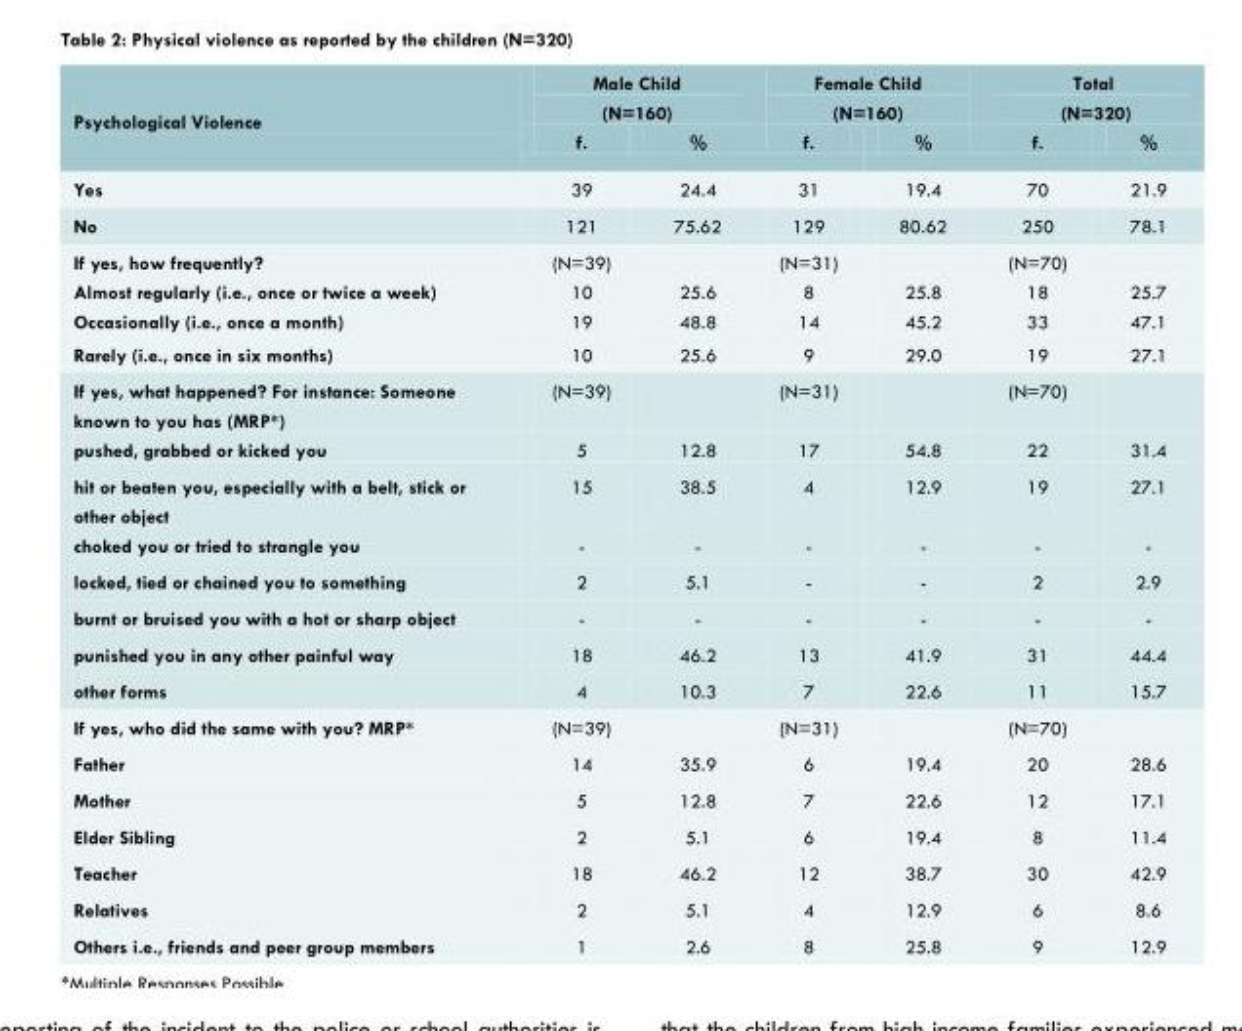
<table><thead><tr><td rowspan="2">Psychological Violence</td><td colspan="2">Male Child (N=160)</td><td colspan="2">Female Child (N=160)</td><td colspan="2">Total (N=320)</td></tr><tr><td>f.</td><td>%</td><td>f.</td><td>%</td><td>f.</td><td>%</td></tr></thead><tbody><tr><td>Yes</td><td>39</td><td>24.4</td><td>31</td><td>19.4</td><td>70</td><td>21.9</td></tr><tr><td>No</td><td>121</td><td>75.62</td><td>129</td><td>80.62</td><td>250</td><td>78.1</td></tr><tr><td>If yes, how frequently?</td><td>(N=39)</td><td></td><td>(N=31)</td><td></td><td>(N=70)</td><td></td></tr><tr><td>Almost regularly (i.e., once or twice a week)</td><td>10</td><td>25.6</td><td>8</td><td>25.8</td><td>18</td><td>25.7</td></tr><tr><td>Occasionally (i.e., once a month)</td><td>19</td><td>48.8</td><td>14</td><td>45.2</td><td>33</td><td>47.1</td></tr><tr><td>Rarely (i.e., once in six months)</td><td>10</td><td>25.6</td><td>9</td><td>29.0</td><td>19</td><td>27.1</td></tr><tr><td>If yes, what happened? For instance: Someone known to you has (MRP*)</td><td>(N=39)</td><td></td><td>(N=31)</td><td></td><td>(N=70)</td><td></td></tr><tr><td>pushed, grabbed or kicked you</td><td>5</td><td>12.8</td><td>17</td><td>54.8</td><td>22</td><td>31.4</td></tr><tr><td>hit or beaten you, especially with a belt, stick or other object</td><td>15</td><td>38.5</td><td>4</td><td>12.9</td><td>19</td><td>27.1</td></tr><tr><td>choked you or tried to strangle you</td><td>-</td><td>-</td><td>-</td><td>-</td><td>-</td><td>-</td></tr><tr><td>locked, tied or chained you to something</td><td>2</td><td>5.1</td><td>-</td><td>-</td><td>2</td><td>2.9</td></tr><tr><td>burnt or bruised you with a hot or sharp object</td><td>-</td><td>-</td><td>-</td><td>-</td><td>-</td><td>-</td></tr><tr><td>punished you in any other painful way</td><td>18</td><td>46.2</td><td>13</td><td>41.9</td><td>31</td><td>44.4</td></tr><tr><td>other forms</td><td>4</td><td>10.3</td><td>7</td><td>22.6</td><td>11</td><td>15.7</td></tr><tr><td>If yes, who did the same with you? MRP*</td><td>(N=39)</td><td></td><td>(N=31)</td><td></td><td>(N=70)</td><td></td></tr><tr><td>Father</td><td>14</td><td>35.9</td><td>6</td><td>19.4</td><td>20</td><td>28.6</td></tr><tr><td>Mother</td><td>5</td><td>12.8</td><td>7</td><td>22.6</td><td>12</td><td>17.1</td></tr><tr><td>Elder Sibling</td><td>2</td><td>5.1</td><td>6</td><td>19.4</td><td>8</td><td>11.4</td></tr><tr><td>Teacher</td><td>18</td><td>46.2</td><td>12</td><td>38.7</td><td>30</td><td>42.9</td></tr><tr><td>Relatives</td><td>2</td><td>5.1</td><td>4</td><td>12.9</td><td>6</td><td>8.6</td></tr><tr><td>Others i.e., friends and peer group members</td><td>1</td><td>2.6</td><td>8</td><td>25.8</td><td>9</td><td>12.9</td></tr></tbody></table>